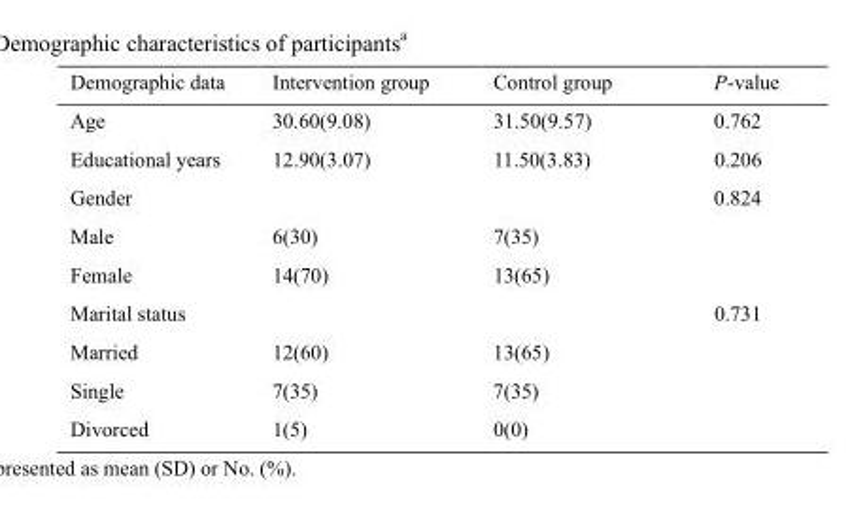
<table><thead><tr><td>Demographic data</td><td>Intervention group</td><td>Control group</td><td>P-value</td></tr></thead><tbody><tr><td>Age</td><td>30.60(9.08)</td><td>31.50(9.57)</td><td>0.762</td></tr><tr><td>Educational years</td><td>12.90(3.07)</td><td>11.50(3.83)</td><td>0.206</td></tr><tr><td>Gender</td><td></td><td></td><td>0.824</td></tr><tr><td>Male</td><td>6(30)</td><td>7(35)</td><td></td></tr><tr><td>Female</td><td>14(70)</td><td>13(65)</td><td></td></tr><tr><td>Marital status</td><td></td><td></td><td>0.731</td></tr><tr><td>Married</td><td>12(60)</td><td>13(65)</td><td></td></tr><tr><td>Single</td><td>7(35)</td><td>7(35)</td><td></td></tr><tr><td>Divorced</td><td>1(5)</td><td>0(0)</td><td></td></tr></tbody></table>